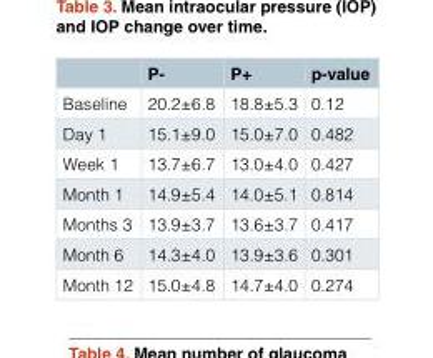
<table><thead><tr><td></td><td>P-</td><td>P+</td><td>p-value</td></tr></thead><tbody><tr><td>Baseline</td><td>20.2±6.8</td><td>18.8±5.3</td><td>0.12</td></tr><tr><td>Day 1</td><td>15.1±9.0</td><td>15.0±7.0</td><td>0.482</td></tr><tr><td>Week 1</td><td>13.7±6.7</td><td>13.0±4.0</td><td>0.427</td></tr><tr><td>Month 1</td><td>14.9±5.4</td><td>14.0±5.1</td><td>0.814</td></tr><tr><td>Months 3</td><td>13.9±3.7</td><td>13.6±3.7</td><td>0.417</td></tr><tr><td>Month 6</td><td>14.3±4.0</td><td>13.9±3.6</td><td>0.301</td></tr><tr><td>Month 12</td><td>15.0±4.8</td><td>14.7±4.0</td><td>0.274</td></tr></tbody></table>